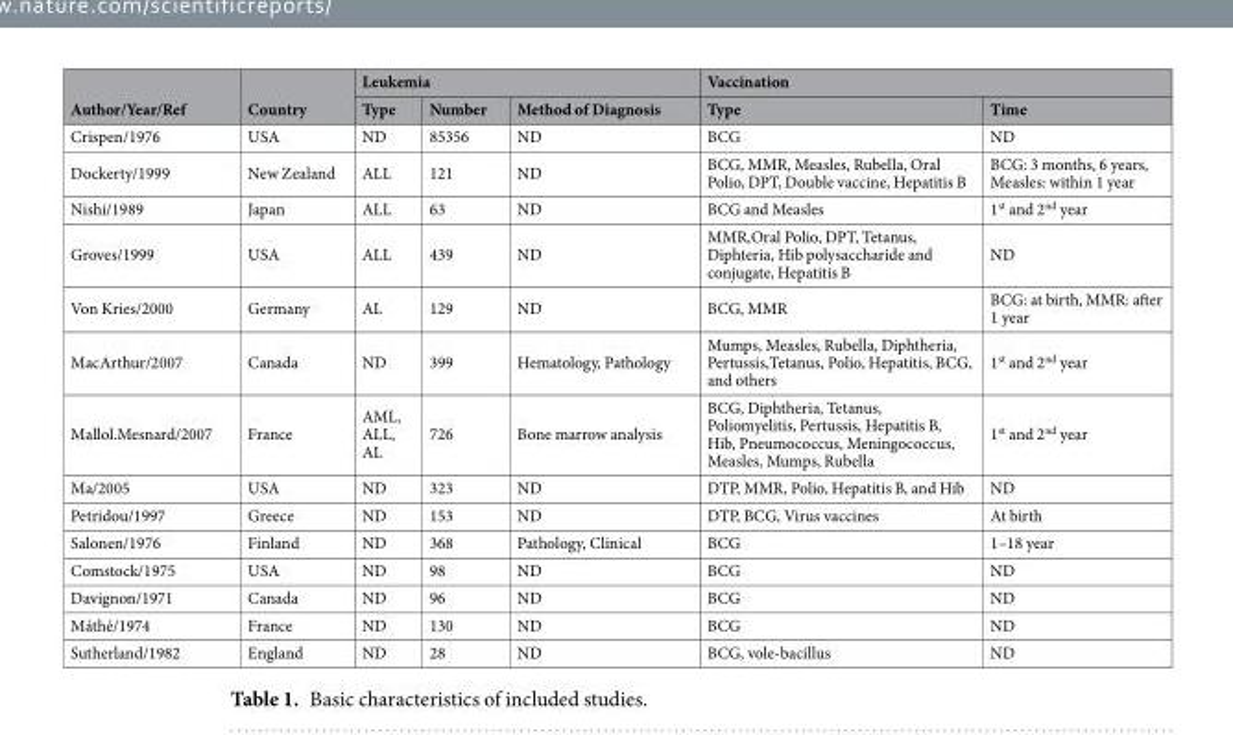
<table><thead><tr><td rowspan="2">Author/Year/Ref</td><td rowspan="2">Country</td><td colspan="3">Leukemia</td><td colspan="2">Vaccination</td></tr><tr><td>Type</td><td>Number</td><td>Method of Diagnosis</td><td>Type</td><td>Time</td></tr></thead><tbody><tr><td>Crispen/1976</td><td>USA</td><td>ND</td><td>85356</td><td>ND</td><td>BCG</td><td>ND</td></tr><tr><td>Dockerty/1999</td><td>New Zealand</td><td>ALL</td><td>121</td><td>ND</td><td>BCG, MMR, Measles, Rubella, Oral Polio, DPT, Double vaccine, Hepatitis B</td><td>BCG: 3 months, 6 years, Measles: within 1 year</td></tr><tr><td>Nishi/1989</td><td>Japan</td><td>ALL</td><td>63</td><td>ND</td><td>BCG and Measles</td><td>1<sup>st</sup> and 2<sup>nd</sup> year</td></tr><tr><td>Groves/1999</td><td>USA</td><td>ALL</td><td>439</td><td>ND</td><td>MMR,Oral Polio, DPT, Tetanus, Diphteria, Hib polysaccharide and conjugate, Hepatitis B</td><td>ND</td></tr><tr><td>Von Kries/2000</td><td>Germany</td><td>AL</td><td>129</td><td>ND</td><td>BCG, MMR</td><td>BCG: at birth, MMR: after 1 year</td></tr><tr><td>MacArthur/2007</td><td>Canada</td><td>ND</td><td>399</td><td>Hematology, Pathology</td><td>Mumps, Measles, Rubella, Diphtheria, Pertussis,Tetanus, Polio, Hepatitis, BCG, and others</td><td>1<sup>st</sup> and 2<sup>nd</sup> year</td></tr><tr><td>Mallol.Mesnard/2007</td><td>France</td><td>AML, ALL, AL</td><td>726</td><td>Bone marrow analysis</td><td>BCG, Diphtheria, Tetanus, Poliomyelitis, Pertussis, Hepatitis B, Hib, Pneumococcus, Meningococcus, Measles, Mumps, Rubella</td><td>1<sup>st</sup> and 2<sup>nd</sup> year</td></tr><tr><td>Ma/2005</td><td>USA</td><td>ND</td><td>323</td><td>ND</td><td>DTP, MMR, Polio, Hepatitis B, and Hib</td><td>ND</td></tr><tr><td>Petridou/1997</td><td>Greece</td><td>ND</td><td>153</td><td>ND</td><td>DTP, BCG, Virus vaccines</td><td>At birth</td></tr><tr><td>Salonen/1976</td><td>Finland</td><td>ND</td><td>368</td><td>Pathology, Clinical</td><td>BCG</td><td>1–18 year</td></tr><tr><td>Comstock/1975</td><td>USA</td><td>ND</td><td>98</td><td>ND</td><td>BCG</td><td>ND</td></tr><tr><td>Davignon/1971</td><td>Canada</td><td>ND</td><td>96</td><td>ND</td><td>BCG</td><td>ND</td></tr><tr><td>Máthé/1974</td><td>France</td><td>ND</td><td>130</td><td>ND</td><td>BCG</td><td>ND</td></tr><tr><td>Sutherland/1982</td><td>England</td><td>ND</td><td>28</td><td>ND</td><td>BCG, vole-bacillus</td><td>ND</td></tr></tbody></table>